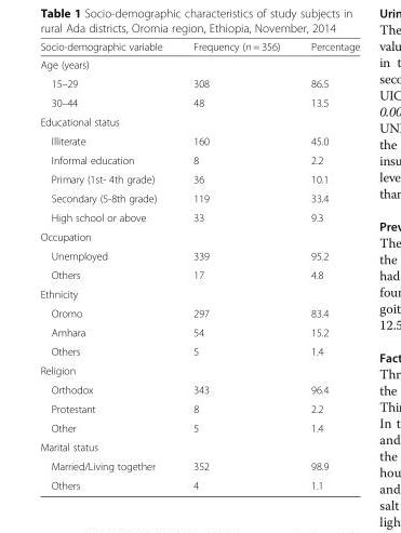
<table><thead><tr><td>Socio-demographic variable</td><td>Frequency (n = 356)</td><td>Percentage</td></tr></thead><tbody><tr><td colspan="3">Age (years)</td></tr><tr><td>15–29</td><td>308</td><td>86.5</td></tr><tr><td>30–44</td><td>48</td><td>13.5</td></tr><tr><td colspan="3">Educational status</td></tr><tr><td>Illiterate</td><td>160</td><td>45.0</td></tr><tr><td>Informal education</td><td>8</td><td>2.2</td></tr><tr><td>Primary (1st- 4th grade)</td><td>36</td><td>10.1</td></tr><tr><td>Secondary (5-8th grade)</td><td>119</td><td>33.4</td></tr><tr><td>High school or above</td><td>33</td><td>9.3</td></tr><tr><td colspan="3">Occupation</td></tr><tr><td>Unemployed</td><td>339</td><td>95.2</td></tr><tr><td>Others</td><td>17</td><td>4.8</td></tr><tr><td colspan="3">Ethnicity</td></tr><tr><td>Oromo</td><td>297</td><td>83.4</td></tr><tr><td>Amhara</td><td>54</td><td>15.2</td></tr><tr><td>Others</td><td>5</td><td>1.4</td></tr><tr><td colspan="3">Religion</td></tr><tr><td>Orthodox</td><td>343</td><td>96.4</td></tr><tr><td>Protestant</td><td>8</td><td>2.2</td></tr><tr><td>Other</td><td>5</td><td>1.4</td></tr><tr><td colspan="3">Marital status</td></tr><tr><td>Married/Living together</td><td>352</td><td>98.9</td></tr><tr><td>Others</td><td>4</td><td>1.1</td></tr></tbody></table>